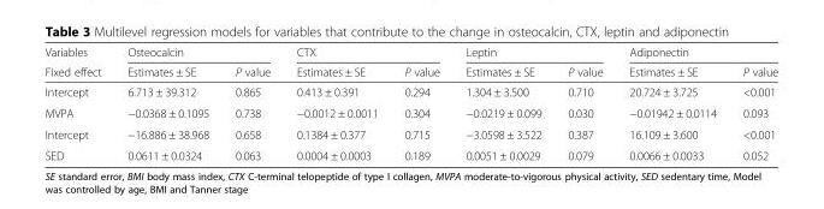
<table><thead><tr><td rowspan="2">Variables Fixed effect</td><td colspan="2">Osteocalcin</td><td colspan="2">CTX</td><td colspan="2">Leptin</td><td colspan="2">Adiponectin</td></tr><tr><td>Estimates ± SE</td><td>P value</td><td>Estimates ± SE</td><td>P value</td><td>Estimates ± SE</td><td>P value</td><td>Estimates ± SE</td><td>P value</td></tr></thead><tbody><tr><td>Intercept</td><td>6.713 ± 39.312</td><td>0.865</td><td>0.413 ± 0.391</td><td>0.294</td><td>1.304 ± 3.500</td><td>0.710</td><td>20.724 ± 3.725</td><td>&lt;0.001</td></tr><tr><td>MVPA</td><td>−0.0368 ± 0.1095</td><td>0.738</td><td>−0.0012 ± 0.0011</td><td>0.304</td><td>−0.0219 ± 0.099</td><td>0.030</td><td>−0.01942 ± 0.0114</td><td>0.093</td></tr><tr><td>Intercept</td><td>−16.886 ± 38.968</td><td>0.658</td><td>0.1384 ± 0.377</td><td>0.715</td><td>−3.0598 ± 3.522</td><td>0.387</td><td>16.109 ± 3.600</td><td>&lt;0.001</td></tr><tr><td>SED</td><td>0.0611 ± 0.0324</td><td>0.063</td><td>0.0004 ± 0.0003</td><td>0.189</td><td>0.0051 ± 0.0029</td><td>0.079</td><td>0.0066 ± 0.0033</td><td>0.052</td></tr></tbody></table>